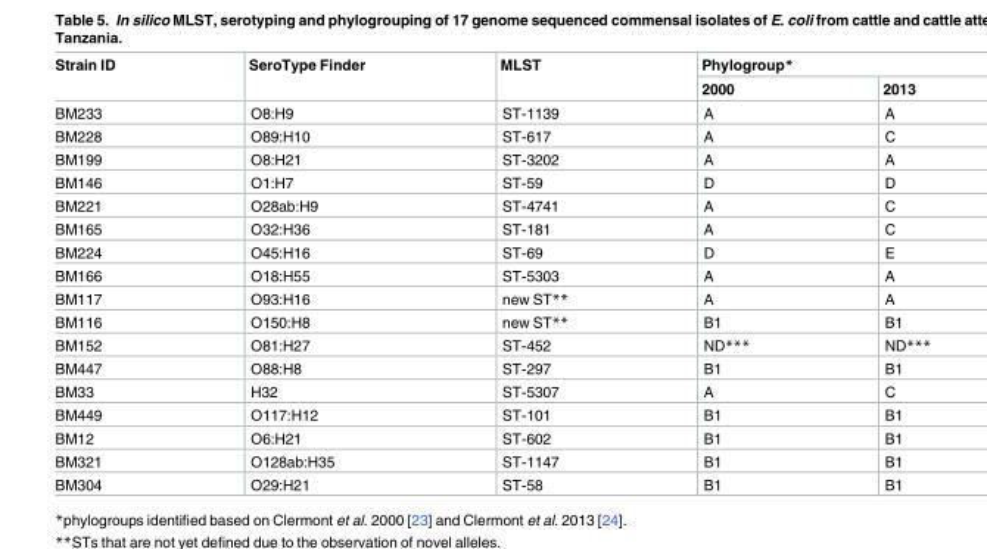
<table><thead><tr><td rowspan="2">Strain ID</td><td rowspan="2">SeroType Finder</td><td rowspan="2">MLST</td><td colspan="2">Phylogroup*</td></tr><tr><td>2000</td><td>2013</td></tr></thead><tbody><tr><td>BM233</td><td>O8:H9</td><td>ST-1139</td><td>A</td><td>A</td></tr><tr><td>BM228</td><td>O89:H10</td><td>ST-617</td><td>A</td><td>C</td></tr><tr><td>BM199</td><td>O8:H21</td><td>ST-3202</td><td>A</td><td>A</td></tr><tr><td>BM146</td><td>O1:H7</td><td>ST-59</td><td>D</td><td>D</td></tr><tr><td>BM221</td><td>O28ab:H9</td><td>ST-4741</td><td>A</td><td>C</td></tr><tr><td>BM165</td><td>O32:H36</td><td>ST-181</td><td>A</td><td>C</td></tr><tr><td>BM224</td><td>O45:H16</td><td>ST-69</td><td>D</td><td>E</td></tr><tr><td>BM166</td><td>O18:H55</td><td>ST-5303</td><td>A</td><td>A</td></tr><tr><td>BM117</td><td>O93:H16</td><td>new ST**</td><td>A</td><td>A</td></tr><tr><td>BM116</td><td>O150:H8</td><td>new ST**</td><td>B1</td><td>B1</td></tr><tr><td>BM152</td><td>O81:H27</td><td>ST-452</td><td>ND***</td><td>ND***</td></tr><tr><td>BM447</td><td>O88:H8</td><td>ST-297</td><td>B1</td><td>B1</td></tr><tr><td>BM33</td><td>H32</td><td>ST-5307</td><td>A</td><td>C</td></tr><tr><td>BM449</td><td>O117:H12</td><td>ST-101</td><td>B1</td><td>B1</td></tr><tr><td>BM12</td><td>O6:H21</td><td>ST-602</td><td>B1</td><td>B1</td></tr><tr><td>BM321</td><td>O128ab:H35</td><td>ST-1147</td><td>B1</td><td>B1</td></tr><tr><td>BM304</td><td>O29:H21</td><td>ST-58</td><td>B1</td><td>B1</td></tr></tbody></table>